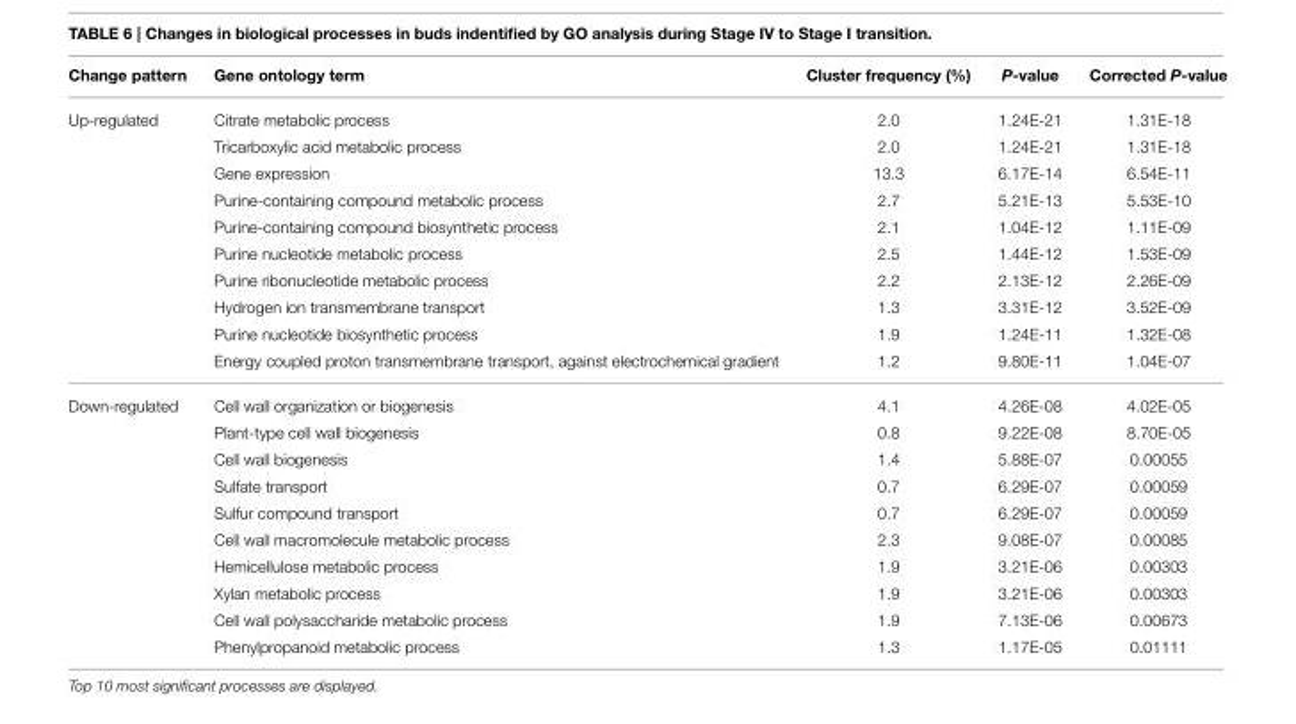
<table><thead><tr><td>Change pattern</td><td>Gene ontology term</td><td>Cluster frequency (%)</td><td>P-value</td><td>Corrected P-value</td></tr></thead><tbody><tr><td rowspan="10">Up-regulated</td><td>Citrate metabolic process</td><td>2.0</td><td>1.24E-21</td><td>1.31E-18</td></tr><tr><td>Tricarboxylic acid metabolic process</td><td>2.0</td><td>1.24E-21</td><td>1.31E-18</td></tr><tr><td>Gene expression</td><td>13.3</td><td>6.17E-14</td><td>6.54E-11</td></tr><tr><td>Purine-containing compound metabolic process</td><td>2.7</td><td>5.21E-13</td><td>5.53E-10</td></tr><tr><td>Purine-containing compound biosynthetic process</td><td>2.1</td><td>1.04E-12</td><td>1.11E-09</td></tr><tr><td>Purine nucleotide metabolic process</td><td>2.5</td><td>1.44E-12</td><td>1.53E-09</td></tr><tr><td>Purine ribonucleotide metabolic process</td><td>2.2</td><td>2.13E-12</td><td>2.26E-09</td></tr><tr><td>Hydrogen ion transmembrane transport</td><td>1.3</td><td>3.31E-12</td><td>3.52E-09</td></tr><tr><td>Purine nucleotide biosynthetic process</td><td>1.9</td><td>1.24E-11</td><td>1.32E-08</td></tr><tr><td>Energy coupled proton transmembrane transport, against electrochemical gradient</td><td>1.2</td><td>9.80E-11</td><td>1.04E-07</td></tr><tr><td rowspan="10">Down-regulated</td><td>Cell wall organization or biogenesis</td><td>4.1</td><td>4.26E-08</td><td>4.02E-05</td></tr><tr><td>Plant-type cell wall biogenesis</td><td>0.8</td><td>9.22E-08</td><td>8.70E-05</td></tr><tr><td>Cell wall biogenesis</td><td>1.4</td><td>5.88E-07</td><td>0.00055</td></tr><tr><td>Sulfate transport</td><td>0.7</td><td>6.29E-07</td><td>0.00059</td></tr><tr><td>Sulfur compound transport</td><td>0.7</td><td>6.29E-07</td><td>0.00059</td></tr><tr><td>Cell wall macromolecule metabolic process</td><td>2.3</td><td>9.08E-07</td><td>0.00085</td></tr><tr><td>Hemicellulose metabolic process</td><td>1.9</td><td>3.21E-06</td><td>0.00303</td></tr><tr><td>Xylan metabolic process</td><td>1.9</td><td>3.21E-06</td><td>0.00303</td></tr><tr><td>Cell wall polysaccharide metabolic process</td><td>1.9</td><td>7.13E-06</td><td>0.00673</td></tr><tr><td>Phenylpropanoid metabolic process</td><td>1.3</td><td>1.17E-05</td><td>0.01111</td></tr></tbody></table>